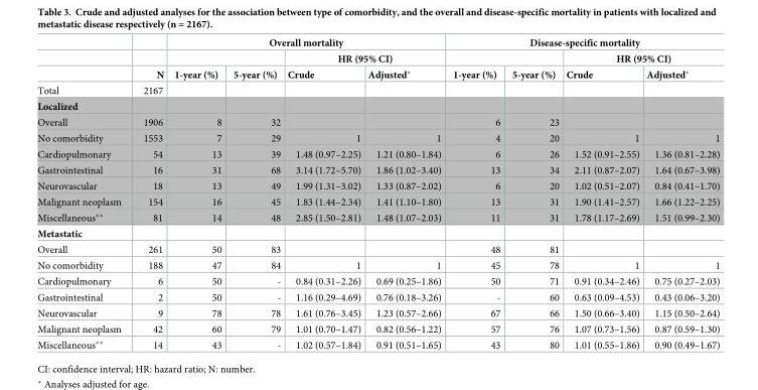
<table><thead><tr><td rowspan="3"></td><td rowspan="3">N</td><td colspan="4">Overall mortality</td><td colspan="4">Disease-specific mortality</td></tr><tr><td rowspan="2">1-year (%)</td><td rowspan="2">5-year (%)</td><td colspan="2">HR (95% CI)</td><td rowspan="2">1-year (%)</td><td rowspan="2">5-year (%)</td><td colspan="2">HR (95% CI)</td></tr><tr><td>Crude</td><td>Adjusted*</td><td>Crude</td><td>Adjusted*</td></tr></thead><tbody><tr><td>Total</td><td>2167</td><td></td><td></td><td></td><td></td><td></td><td></td><td></td><td></td></tr><tr><td colspan="10">Localized</td></tr><tr><td>Overall</td><td>1906</td><td>8</td><td>32</td><td></td><td></td><td>6</td><td>23</td><td></td><td></td></tr><tr><td>No comorbidity</td><td>1553</td><td>7</td><td>29</td><td>1</td><td>1</td><td>4</td><td>20</td><td>1</td><td>1</td></tr><tr><td>Cardiopulmonary</td><td>54</td><td>13</td><td>39</td><td>1.48 (0.97–2.25)</td><td>1.21 (0.80–1.84)</td><td>6</td><td>26</td><td>1.52 (0.91–2.55)</td><td>1.36 (0.81–2.28)</td></tr><tr><td>Gastrointestinal</td><td>16</td><td>31</td><td>68</td><td>3.14 (1.72–5.70)</td><td>1.86 (1.02–3.40)</td><td>13</td><td>34</td><td>2.11 (0.87–2.07)</td><td>1.64 (0.67–3.98)</td></tr><tr><td>Neurovascular</td><td>18</td><td>13</td><td>49</td><td>1.99 (1.31–3.02)</td><td>1.33 (0.87–2.02)</td><td>6</td><td>20</td><td>1.02 (0.51–2.07)</td><td>0.84 (0.41–1.70)</td></tr><tr><td>Malignant neoplasm</td><td>154</td><td>16</td><td>45</td><td>1.83 (1.44–2.34)</td><td>1.41 (1.10–1.80)</td><td>13</td><td>31</td><td>1.90 (1.41–2.57)</td><td>1.66 (1.22–2.25)</td></tr><tr><td>Miscellaneous**</td><td>81</td><td>14</td><td>48</td><td>2.85 (1.50–2.81)</td><td>1.48 (1.07–2.03)</td><td>11</td><td>31</td><td>1.78 (1.17–2.69)</td><td>1.51 (0.99–2.30)</td></tr><tr><td colspan="10">Metastatic</td></tr><tr><td>Overall</td><td>261</td><td>50</td><td>83</td><td></td><td></td><td>48</td><td>81</td><td></td><td></td></tr><tr><td>No comorbidity</td><td>188</td><td>47</td><td>84</td><td>1</td><td>1</td><td>45</td><td>78</td><td>1</td><td>1</td></tr><tr><td>Cardiopulmonary</td><td>6</td><td>50</td><td>-</td><td>0.84 (0.31–2.26)</td><td>0.69 (0.25–1.86)</td><td>50</td><td>71</td><td>0.91 (0.34–2.46)</td><td>0.75 (0.27–2.03)</td></tr><tr><td>Gastrointestinal</td><td>2</td><td>50</td><td>-</td><td>1.16 (0.29–4.69)</td><td>0.76 (0.18–3.26)</td><td>-</td><td>60</td><td>0.63 (0.09–4.53)</td><td>0.43 (0.06–3.20)</td></tr><tr><td>Neurovascular</td><td>9</td><td>78</td><td>78</td><td>1.61 (0.76–3.45)</td><td>1.23 (0.57–2.66)</td><td>67</td><td>66</td><td>1.50 (0.66–3.40)</td><td>1.15 (0.50–2.64)</td></tr><tr><td>Malignant neoplasm</td><td>42</td><td>60</td><td>79</td><td>1.01 (0.70–1.47)</td><td>0.82 (0.56–1.22)</td><td>57</td><td>76</td><td>1.07 (0.73–1.56)</td><td>0.87 (0.59–1.30)</td></tr><tr><td>Miscellaneous**</td><td>14</td><td>43</td><td>-</td><td>1.02 (0.57–1.84)</td><td>0.91 (0.51–1.65)</td><td>43</td><td>80</td><td>1.01 (0.55–1.86)</td><td>0.90 (0.49–1.67)</td></tr></tbody></table>